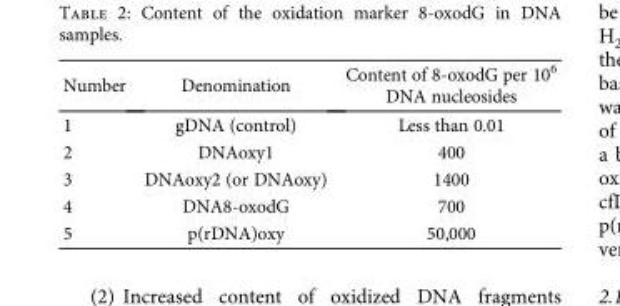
<table><thead><tr><td>Number</td><td>Denomination</td><td>Content of 8-oxodG per 10<sup>6</sup> DNA nucleosides</td></tr></thead><tbody><tr><td>1</td><td>gDNA (control)</td><td>Less than 0.01</td></tr><tr><td>2</td><td>DNAoxy1</td><td>400</td></tr><tr><td>3</td><td>DNAoxy2 (or DNAoxy)</td><td>1400</td></tr><tr><td>4</td><td>DNA8-oxodG</td><td>700</td></tr><tr><td>5</td><td>p(rDNA)oxy</td><td>50,000</td></tr></tbody></table>